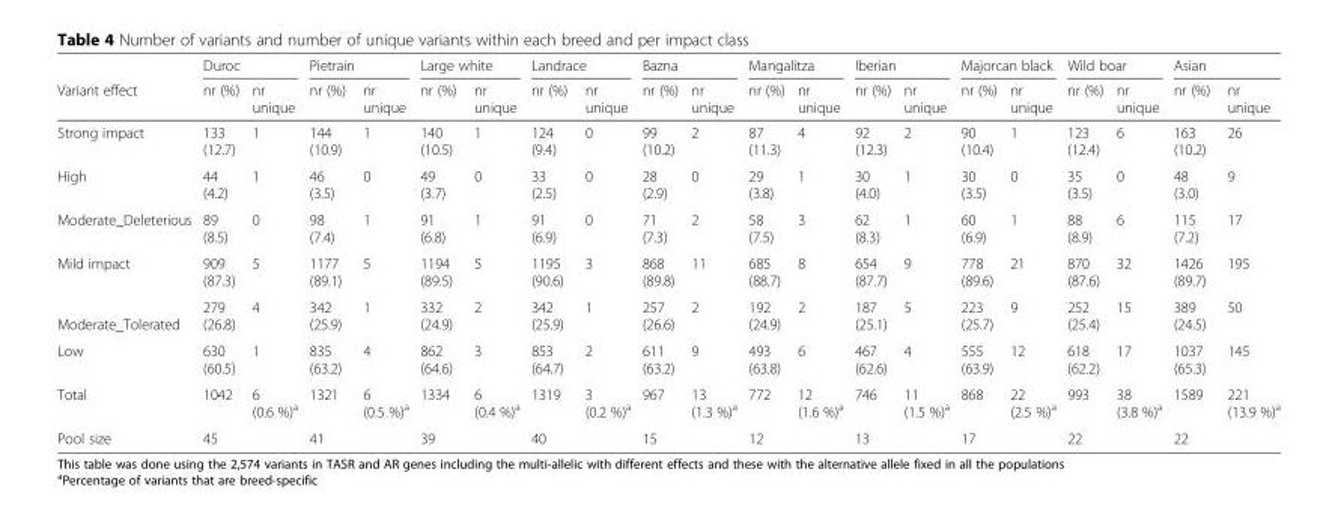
<table><thead><tr><td rowspan="2">Variant effect</td><td colspan="2">Duroc</td><td colspan="2">Pietrain</td><td colspan="2">Large white</td><td colspan="2">Landrace</td><td colspan="2">Bazna</td><td colspan="2">Mangalitza</td><td colspan="2">Iberian</td><td colspan="2">Majorcan black</td><td colspan="2">Wild boar</td><td colspan="2">Asian</td></tr><tr><td>nr (%)</td><td>nr unique</td><td>nr (%)</td><td>nr unique</td><td>nr (%)</td><td>nr unique</td><td>nr (%)</td><td>nr unique</td><td>nr (%)</td><td>nr unique</td><td>nr (%)</td><td>nr unique</td><td>nr (%)</td><td>nr unique</td><td>nr (%)</td><td>nr unique</td><td>nr (%)</td><td>nr unique</td><td>nr (%)</td><td>nr unique</td></tr></thead><tbody><tr><td>Strong impact</td><td>133 (12.7)</td><td>1</td><td>144 (10.9)</td><td>1</td><td>140 (10.5)</td><td>1</td><td>124 (9.4)</td><td>0</td><td>99 (10.2)</td><td>2</td><td>87 (11.3)</td><td>4</td><td>92 (12.3)</td><td>2</td><td>90 (10.4)</td><td>1</td><td>123 (12.4)</td><td>6</td><td>163 (10.2)</td><td>26</td></tr><tr><td>High</td><td>44 (4.2)</td><td>1</td><td>46 (3.5)</td><td>0</td><td>49 (3.7)</td><td>0</td><td>33 (2.5)</td><td>0</td><td>28 (2.9)</td><td>0</td><td>29 (3.8)</td><td>1</td><td>30 (4.0)</td><td>1</td><td>30 (3.5)</td><td>0</td><td>35 (3.5)</td><td>0</td><td>48 (3.0)</td><td>9</td></tr><tr><td>Moderate_Deleterious</td><td>89 (8.5)</td><td>0</td><td>98 (7.4)</td><td>1</td><td>91 (6.8)</td><td>1</td><td>91 (6.9)</td><td>0</td><td>71 (7.3)</td><td>2</td><td>58 (7.5)</td><td>3</td><td>62 (8.3)</td><td>1</td><td>60 (6.9)</td><td>1</td><td>88 (8.9)</td><td>6</td><td>115 (7.2)</td><td>17</td></tr><tr><td>Mild impact</td><td>909 (87.3)</td><td>5</td><td>1177 (89.1)</td><td>5</td><td>1194 (89.5)</td><td>5</td><td>1195 (90.6)</td><td>3</td><td>868 (89.8)</td><td>11</td><td>685 (88.7)</td><td>8</td><td>654 (87.7)</td><td>9</td><td>778 (89.6)</td><td>21</td><td>870 (87.6)</td><td>32</td><td>1426 (89.7)</td><td>195</td></tr><tr><td>Moderate_Tolerated</td><td>279 (26.8)</td><td>4</td><td>342 (25.9)</td><td>1</td><td>332 (24.9)</td><td>2</td><td>342 (25.9)</td><td>1</td><td>257 (26.6)</td><td>2</td><td>192 (24.9)</td><td>2</td><td>187 (25.1)</td><td>5</td><td>223 (25.7)</td><td>9</td><td>252 (25.4)</td><td>15</td><td>389 (24.5)</td><td>50</td></tr><tr><td>Low</td><td>630 (60.5)</td><td>1</td><td>835 (63.2)</td><td>4</td><td>862 (64.6)</td><td>3</td><td>853 (64.7)</td><td>2</td><td>611 (63.2)</td><td>9</td><td>493 (63.8)</td><td>6</td><td>467 (62.6)</td><td>4</td><td>555 (63.9)</td><td>12</td><td>618 (62.2)</td><td>17</td><td>1037 (65.3)</td><td>145</td></tr><tr><td>Total</td><td>1042</td><td>6 (0.6 %)<sup>a</sup></td><td>1321</td><td>6 (0.5 %)<sup>a</sup></td><td>1334</td><td>6 (0.4 %)<sup>a</sup></td><td>1319</td><td>3 (0.2 %)<sup>a</sup></td><td>967</td><td>13 (1.3 %)<sup>a</sup></td><td>772</td><td>12 (1.6 %)<sup>a</sup></td><td>746</td><td>11 (1.5 %)<sup>a</sup></td><td>868</td><td>22 (2.5 %)<sup>a</sup></td><td>993</td><td>38 (3.8 %)<sup>a</sup></td><td>1589</td><td>221 (13.9 %)<sup>a</sup></td></tr><tr><td>Pool size</td><td colspan="2">45</td><td colspan="2">41</td><td colspan="2">39</td><td colspan="2">40</td><td colspan="2">15</td><td colspan="2">12</td><td colspan="2">13</td><td colspan="2">17</td><td colspan="2">22</td><td colspan="2">22</td></tr></tbody></table>